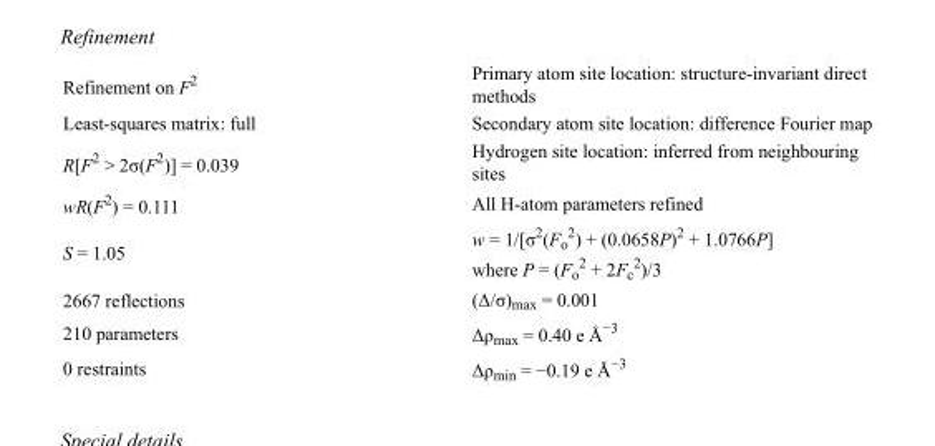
<table><tbody><tr><td>Refinement on F<sup>2</sup></td><td>Primary atom site location: structure-invariant direct methods</td></tr><tr><td>Least-squares matrix: full</td><td>Secondary atom site location: difference Fourier map</td></tr><tr><td>R[F<sup>2</sup> &gt; 2σ(F<sup>2</sup>)] = 0.039</td><td>Hydrogen site location: inferred from neighbouring sites</td></tr><tr><td>wR(F<sup>2</sup>) = 0.111</td><td>All H-atom parameters refined</td></tr><tr><td>S = 1.05</td><td>w = 1/[σ<sup>2</sup>(F<sub>o</sub> <sup>2</sup>) + (0.0658P)<sup>2</sup> + 1.0766P] where P = (F<sub>o</sub> <sup>2</sup> + 2F<sub>c</sub> <sup>2</sup>)/3</td></tr><tr><td>2667 reflections</td><td>(Δ/σ)<sub>max</sub> = 0.001</td></tr><tr><td>210 parameters</td><td>Δρ<sub>max</sub> = 0.40 e Å<sup>−3</sup></td></tr><tr><td>0 restraints</td><td>Δρ<sub>min</sub> = −0.19 e Å<sup>−3</sup></td></tr></tbody></table>